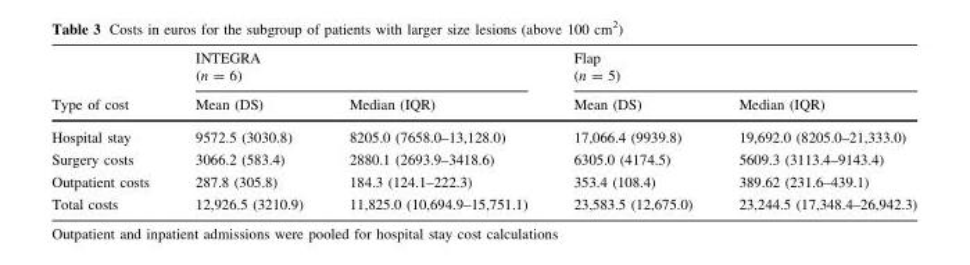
<table><thead><tr><td rowspan="2">Type of cost</td><td colspan="2">INTEGRA (n = 6)</td><td colspan="2">Flap (n = 5)</td></tr><tr><td>Mean (DS)</td><td>Median (IQR)</td><td>Mean (DS)</td><td>Median (IQR)</td></tr></thead><tbody><tr><td>Hospital stay</td><td>9572.5 (3030.8)</td><td>8205.0 (7658.0–13,128.0)</td><td>17,066.4 (9939.8)</td><td>19,692.0 (8205.0–21,333.0)</td></tr><tr><td>Surgery costs</td><td>3066.2 (583.4)</td><td>2880.1 (2693.9–3418.6)</td><td>6305.0 (4174.5)</td><td>5609.3 (3113.4–9143.4)</td></tr><tr><td>Outpatient costs</td><td>287.8 (305.8)</td><td>184.3 (124.1–222.3)</td><td>353.4 (108.4)</td><td>389.62 (231.6–439.1)</td></tr><tr><td>Total costs</td><td>12,926.5 (3210.9)</td><td>11,825.0 (10,694.9–15,751.1)</td><td>23,583.5 (12,675.0)</td><td>23,244.5 (17,348.4–26,942.3)</td></tr></tbody></table>